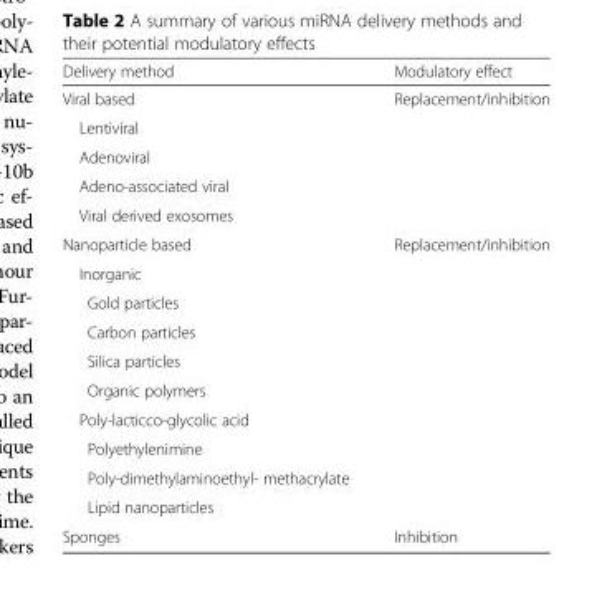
<table><thead><tr><td>Delivery method</td><td>Modulatory effect</td></tr></thead><tbody><tr><td>Viral based</td><td rowspan="5">Replacement/inhibition</td></tr><tr><td>Lentiviral</td></tr><tr><td>Adenoviral</td></tr><tr><td>Adeno-associated viral</td></tr><tr><td>Viral derived exosomes</td></tr><tr><td>Nanoparticle based</td><td rowspan="10">Replacement/inhibition</td></tr><tr><td>Inorganic</td></tr><tr><td>Gold particles</td></tr><tr><td>Carbon particles</td></tr><tr><td>Silica particles</td></tr><tr><td>Organic polymers</td></tr><tr><td>Poly-lacticco-glycolic acid</td></tr><tr><td>Polyethylenimine</td></tr><tr><td>Poly-dimethylaminoethyl- methacrylate</td></tr><tr><td>Lipid nanoparticles</td></tr><tr><td>Sponges</td><td>Inhibition</td></tr></tbody></table>